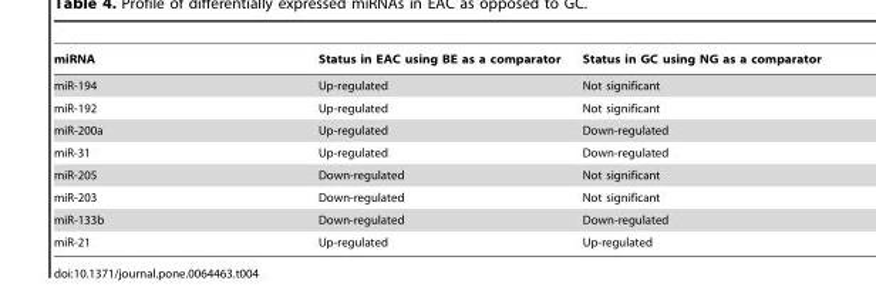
<table><thead><tr><td>miRNA</td><td>Status in EAC using BE as a comparator</td><td>Status in GC using NG as a comparator</td></tr></thead><tbody><tr><td>miR-194</td><td>Up-regulated</td><td>Not significant</td></tr><tr><td>miR-192</td><td>Up-regulated</td><td>Not significant</td></tr><tr><td>miR-200a</td><td>Up-regulated</td><td>Down-regulated</td></tr><tr><td>miR-31</td><td>Up-regulated</td><td>Down-regulated</td></tr><tr><td>miR-205</td><td>Down-regulated</td><td>Not significant</td></tr><tr><td>miR-203</td><td>Down-regulated</td><td>Not significant</td></tr><tr><td>miR-133b</td><td>Down-regulated</td><td>Down-regulated</td></tr><tr><td>miR-21</td><td>Up-regulated</td><td>Up-regulated</td></tr></tbody></table>